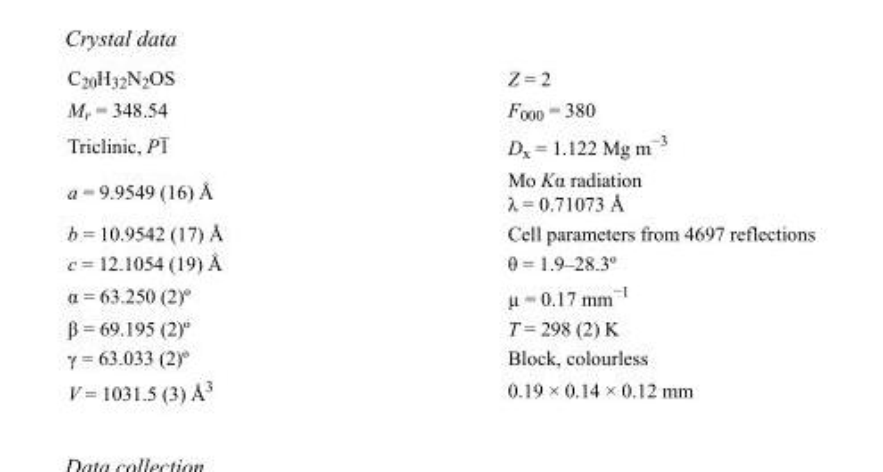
<table><tbody><tr><td>C<sub>20</sub>H<sub>32</sub>N<sub>2</sub>OS</td><td>Z = 2</td></tr><tr><td>M<sub>r</sub> = 348.54</td><td>F<sub>000</sub> = 380</td></tr><tr><td>Triclinic, P1</td><td>D<sub>x</sub> = 1.122 Mg m<sup>−3</sup></td></tr><tr><td>a = 9.9549 (16) Å</td><td>Mo Kα radiation λ = 0.71073 Å</td></tr><tr><td>b = 10.9542 (17) Å</td><td>Cell parameters from 4697 reflections</td></tr><tr><td>c = 12.1054 (19) Å</td><td>θ = 1.9–28.3º</td></tr><tr><td>α = 63.250 (2)º</td><td>µ = 0.17 mm<sup>−1</sup></td></tr><tr><td>β = 69.195 (2)º</td><td>T = 298 (2) K</td></tr><tr><td>γ = 63.033 (2)º</td><td>Block, colourless</td></tr><tr><td>V = 1031.5 (3) Å<sup>3</sup></td><td>0.19 × 0.14 × 0.12 mm</td></tr></tbody></table>